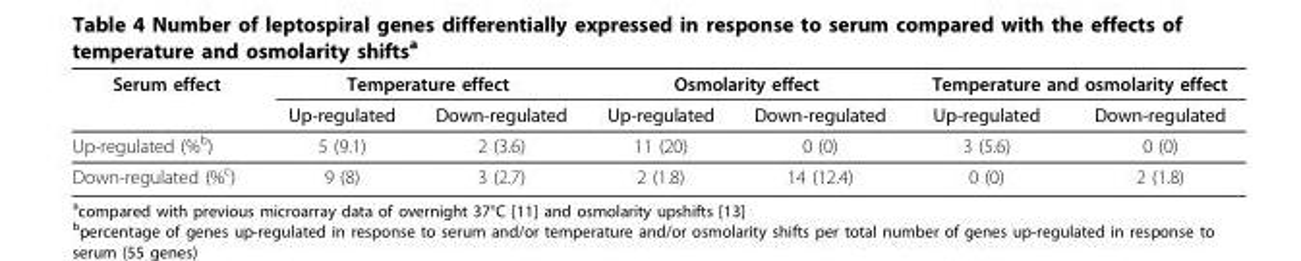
<table><thead><tr><td rowspan="2">Serum effect</td><td colspan="2">Temperature effect</td><td colspan="2">Osmolarity effect</td><td colspan="2">Temperature and osmolarity effect</td></tr><tr><td>Up-regulated</td><td>Down-regulated</td><td>Up-regulated</td><td>Down-regulated</td><td>Up-regulated</td><td>Down-regulated</td></tr></thead><tbody><tr><td>Up-regulated (%<sup>b</sup>)</td><td>5 (9.1)</td><td>2 (3.6)</td><td>11 (20)</td><td>0 (0)</td><td>3 (5.6)</td><td>0 (0)</td></tr><tr><td>Down-regulated (%<sup>c</sup>)</td><td>9 (8)</td><td>3 (2.7)</td><td>2 (1.8)</td><td>14 (12.4)</td><td>0 (0)</td><td>2 (1.8)</td></tr></tbody></table>